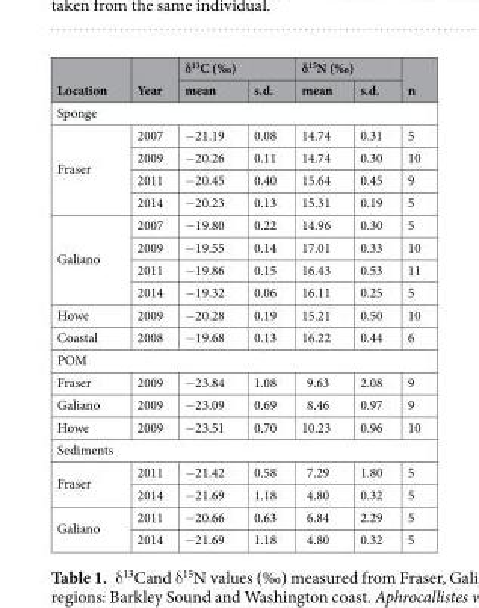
<table><thead><tr><td rowspan="2">Location</td><td rowspan="2">Year</td><td colspan="2">δ<sup>13</sup>C (‰)</td><td colspan="2">δ<sup>15</sup>N (‰)</td><td rowspan="2">n</td></tr><tr><td>mean</td><td>s.d.</td><td>mean</td><td>s.d.</td></tr></thead><tbody><tr><td colspan="7">Sponge</td></tr><tr><td rowspan="4">Fraser</td><td>2007</td><td>−21.19</td><td>0.08</td><td>14.74</td><td>0.31</td><td>5</td></tr><tr><td>2009</td><td>−20.26</td><td>0.11</td><td>14.74</td><td>0.30</td><td>10</td></tr><tr><td>2011</td><td>−20.45</td><td>0.40</td><td>15.64</td><td>0.45</td><td>9</td></tr><tr><td>2014</td><td>−20.23</td><td>0.13</td><td>15.31</td><td>0.19</td><td>5</td></tr><tr><td rowspan="4">Galiano</td><td>2007</td><td>−19.80</td><td>0.22</td><td>14.96</td><td>0.30</td><td>5</td></tr><tr><td>2009</td><td>−19.55</td><td>0.14</td><td>17.01</td><td>0.33</td><td>10</td></tr><tr><td>2011</td><td>−19.86</td><td>0.15</td><td>16.43</td><td>0.53</td><td>11</td></tr><tr><td>2014</td><td>−19.32</td><td>0.06</td><td>16.11</td><td>0.25</td><td>5</td></tr><tr><td>Howe</td><td>2009</td><td>−20.28</td><td>0.19</td><td>15.21</td><td>0.50</td><td>10</td></tr><tr><td>Coastal</td><td>2008</td><td>−19.68</td><td>0.13</td><td>16.22</td><td>0.44</td><td>6</td></tr><tr><td colspan="7">POM</td></tr><tr><td>Fraser</td><td>2009</td><td>−23.84</td><td>1.08</td><td>9.63</td><td>2.08</td><td>9</td></tr><tr><td>Galiano</td><td>2009</td><td>−23.09</td><td>0.69</td><td>8.46</td><td>0.97</td><td>9</td></tr><tr><td>Howe</td><td>2009</td><td>−23.51</td><td>0.70</td><td>10.23</td><td>0.96</td><td>10</td></tr><tr><td colspan="7">Sediments</td></tr><tr><td rowspan="2">Fraser</td><td>2011</td><td>−21.42</td><td>0.58</td><td>7.29</td><td>1.80</td><td>5</td></tr><tr><td>2014</td><td>−21.69</td><td>1.18</td><td>4.80</td><td>0.32</td><td>5</td></tr><tr><td rowspan="2">Galiano</td><td>2011</td><td>−20.66</td><td>0.63</td><td>6.84</td><td>2.29</td><td>5</td></tr><tr><td>2014</td><td>−21.69</td><td>1.18</td><td>4.80</td><td>0.32</td><td>5</td></tr></tbody></table>